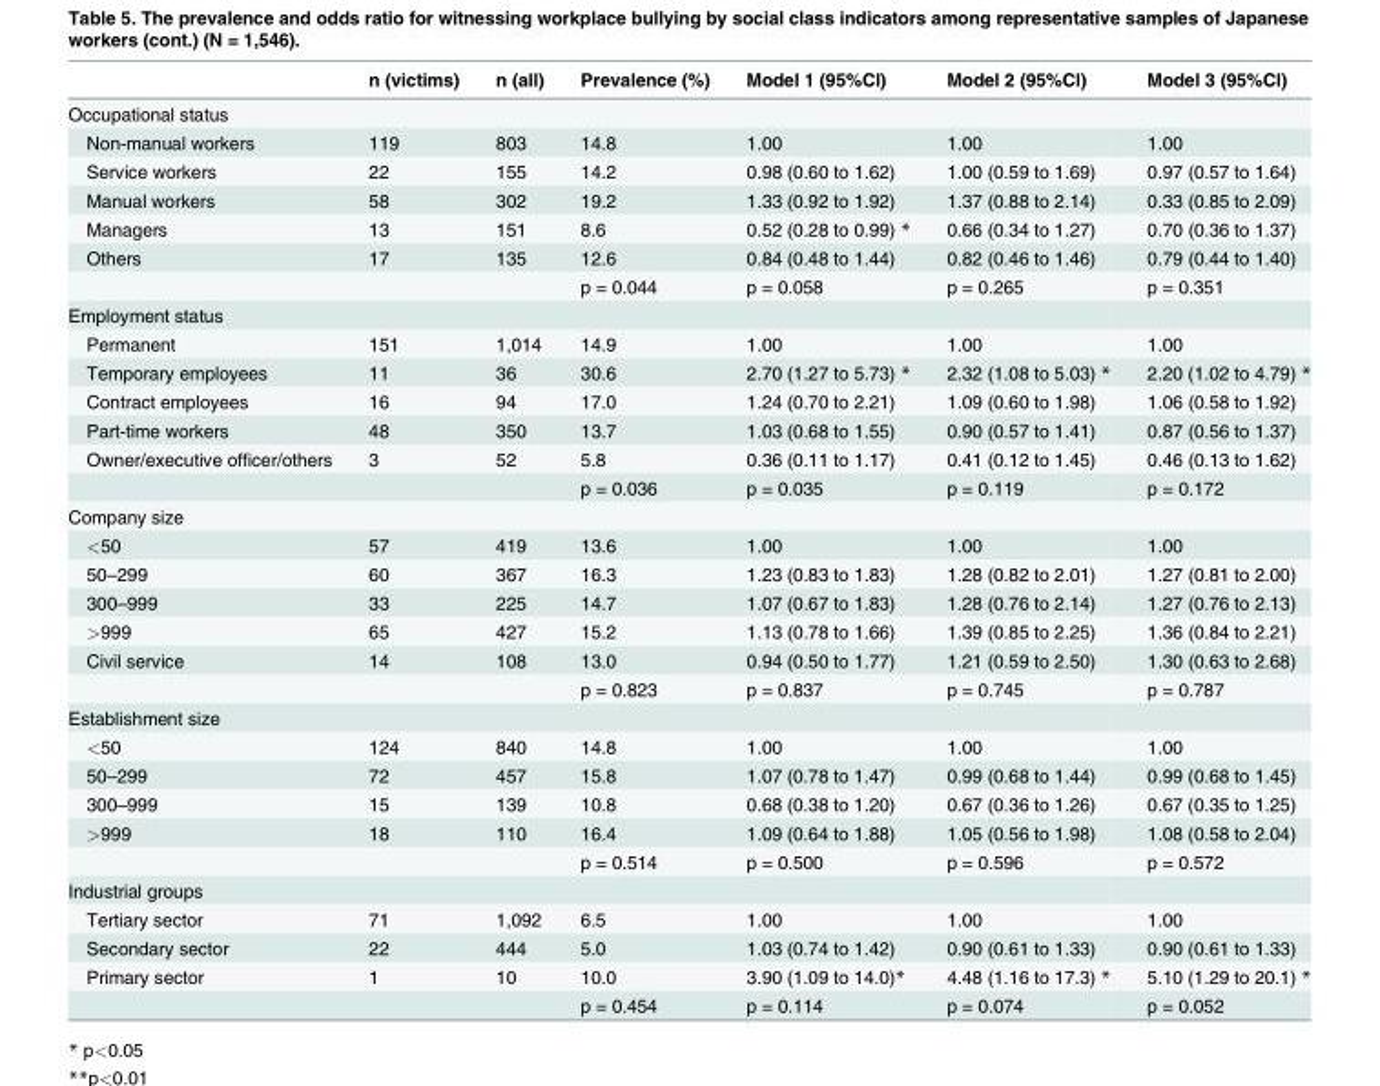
<table><thead><tr><td></td><td>n (victims)</td><td>n (all)</td><td>Prevalence (%)</td><td>Model 1 (95%Cl)</td><td>Model 2 (95%Cl)</td><td>Model 3 (95%Cl)</td></tr></thead><tbody><tr><td colspan="7">Occupational status</td></tr><tr><td>Non-manual workers</td><td>119</td><td>803</td><td>14.8</td><td>1.00</td><td>1.00</td><td>1.00</td></tr><tr><td>Service workers</td><td>22</td><td>155</td><td>14.2</td><td>0.98 (0.60 to 1.62)</td><td>1.00 (0.59 to 1.69)</td><td>0.97 (0.57 to 1.64)</td></tr><tr><td>Manual workers</td><td>58</td><td>302</td><td>19.2</td><td>1.33 (0.92 to 1.92)</td><td>1.37 (0.88 to 2.14)</td><td>0.33 (0.85 to 2.09)</td></tr><tr><td>Managers</td><td>13</td><td>151</td><td>8.6</td><td>0.52 (0.28 to 0.99) *</td><td>0.66 (0.34 to 1.27)</td><td>0.70 (0.36 to 1.37)</td></tr><tr><td rowspan="2">Others</td><td>17</td><td>135</td><td>12.6</td><td>0.84 (0.48 to 1.44)</td><td>0.82 (0.46 to 1.46)</td><td>0.79 (0.44 to 1.40)</td></tr><tr><td></td><td></td><td>p = 0.044</td><td>p = 0.058</td><td>p = 0.265</td><td>p = 0.351</td></tr><tr><td colspan="7">Employment status</td></tr><tr><td>Permanent</td><td>151</td><td>1,014</td><td>14.9</td><td>1.00</td><td>1.00</td><td>1.00</td></tr><tr><td>Temporary employees</td><td>11</td><td>36</td><td>30.6</td><td>2.70 (1.27 to 5.73) *</td><td>2.32 (1.08 to 5.03) *</td><td>2.20 (1.02 to 4.79) *</td></tr><tr><td>Contract employees</td><td>16</td><td>94</td><td>17.0</td><td>1.24 (0.70 to 2.21)</td><td>1.09 (0.60 to 1.98)</td><td>1.06 (0.58 to 1.92)</td></tr><tr><td>Part-time workers</td><td>48</td><td>350</td><td>13.7</td><td>1.03 (0.68 to 1.55)</td><td>0.90 (0.57 to 1.41)</td><td>0.87 (0.56 to 1.37)</td></tr><tr><td rowspan="2">Owner/executive officer/others</td><td>3</td><td>52</td><td>5.8</td><td>0.36 (0.11 to 1.17)</td><td>0.41 (0.12 to 1.45)</td><td>0.46 (0.13 to 1.62)</td></tr><tr><td></td><td></td><td>p = 0.036</td><td>p = 0.035</td><td>p = 0.119</td><td>p = 0.172</td></tr><tr><td colspan="7">Company size</td></tr><tr><td>&lt;50</td><td>57</td><td>419</td><td>13.6</td><td>1.00</td><td>1.00</td><td>1.00</td></tr><tr><td>50–299</td><td>60</td><td>367</td><td>16.3</td><td>1.23 (0.83 to 1.83)</td><td>1.28 (0.82 to 2.01)</td><td>1.27 (0.81 to 2.00)</td></tr><tr><td>300–999</td><td>33</td><td>225</td><td>14.7</td><td>1.07 (0.67 to 1.83)</td><td>1.28 (0.76 to 2.14)</td><td>1.27 (0.76 to 2.13)</td></tr><tr><td>&gt;999</td><td>65</td><td>427</td><td>15.2</td><td>1.13 (0.78 to 1.66)</td><td>1.39 (0.85 to 2.25)</td><td>1.36 (0.84 to 2.21)</td></tr><tr><td rowspan="2">Civil service</td><td>14</td><td>108</td><td>13.0</td><td>0.94 (0.50 to 1.77)</td><td>1.21 (0.59 to 2.50)</td><td>1.30 (0.63 to 2.68)</td></tr><tr><td></td><td></td><td>p = 0.823</td><td>p = 0.837</td><td>p = 0.745</td><td>p = 0.787</td></tr><tr><td colspan="7">Establishment size</td></tr><tr><td>&lt;50</td><td>124</td><td>840</td><td>14.8</td><td>1.00</td><td>1.00</td><td>1.00</td></tr><tr><td>50–299</td><td>72</td><td>457</td><td>15.8</td><td>1.07 (0.78 to 1.47)</td><td>0.99 (0.68 to 1.44)</td><td>0.99 (0.68 to 1.45)</td></tr><tr><td>300–999</td><td>15</td><td>139</td><td>10.8</td><td>0.68 (0.38 to 1.20)</td><td>0.67 (0.36 to 1.26)</td><td>0.67 (0.35 to 1.25)</td></tr><tr><td rowspan="2">&gt;999</td><td>18</td><td>110</td><td>16.4</td><td>1.09 (0.64 to 1.88)</td><td>1.05 (0.56 to 1.98)</td><td>1.08 (0.58 to 2.04)</td></tr><tr><td></td><td></td><td>p = 0.514</td><td>p = 0.500</td><td>p = 0.596</td><td>p = 0.572</td></tr><tr><td colspan="7">Industrial groups</td></tr><tr><td>Tertiary sector</td><td>71</td><td>1,092</td><td>6.5</td><td>1.00</td><td>1.00</td><td>1.00</td></tr><tr><td>Secondary sector</td><td>22</td><td>444</td><td>5.0</td><td>1.03 (0.74 to 1.42)</td><td>0.90 (0.61 to 1.33)</td><td>0.90 (0.61 to 1.33)</td></tr><tr><td rowspan="2">Primary sector</td><td>1</td><td>10</td><td>10.0</td><td>3.90 (1.09 to 14.0)*</td><td>4.48 (1.16 to 17.3) *</td><td>5.10 (1.29 to 20.1) *</td></tr><tr><td></td><td></td><td>p = 0.454</td><td>p = 0.114</td><td>p = 0.074</td><td>p = 0.052</td></tr></tbody></table>